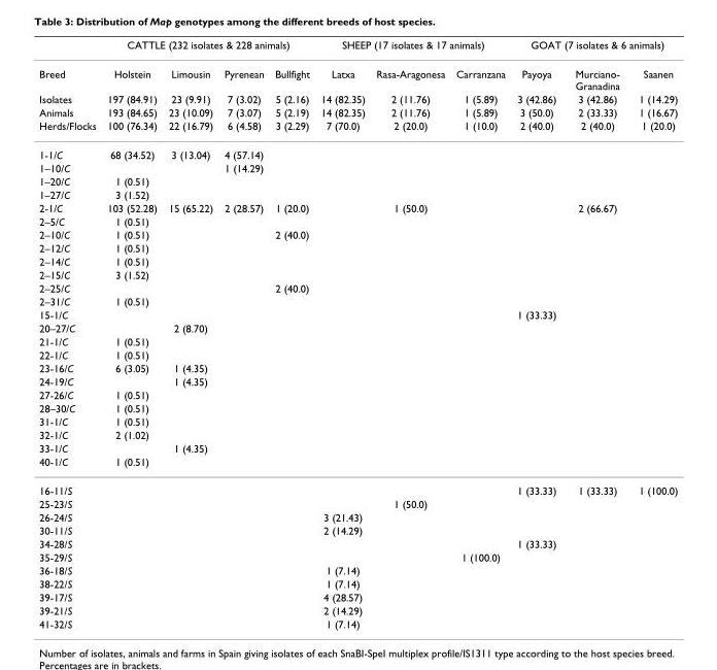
<table><thead><tr><td rowspan="2">Breed</td><td colspan="4">CATTLE (232 isolates &amp; 228 animals)</td><td colspan="3">SHEEP (17 isolates &amp; 17 animals)</td><td colspan="3">GOAT (7 isolates &amp; 6 animals)</td></tr><tr><td>Holstein</td><td>Limousin</td><td>Pyrenean</td><td>Bullfight</td><td>Latxa</td><td>Rasa-Aragonesa</td><td>Carranzana</td><td>Payoya</td><td>Murciano- Granadina</td><td>Saanen</td></tr></thead><tbody><tr><td>Isolates</td><td>197 (84.91)</td><td>23 (9.91)</td><td>7 (3.02)</td><td>5 (2.16)</td><td>14 (82.35)</td><td>2 (11.76)</td><td>1 (5.89)</td><td>3 (42.86)</td><td>3 (42.86)</td><td>1 (14.29)</td></tr><tr><td>Animals</td><td>193 (84.65)</td><td>23 (10.09)</td><td>7 (3.07)</td><td>5 (2.19)</td><td>14 (82.35)</td><td>2 (11.76)</td><td>1 (5.89)</td><td>3 (50.0)</td><td>2 (33.33)</td><td>1 (16.67)</td></tr><tr><td>Herds/Flocks</td><td>100 (76.34)</td><td>22 (16.79)</td><td>6 (4.58)</td><td>3 (2.29)</td><td>7 (70.0)</td><td>2 (20.0)</td><td>1 (10.0)</td><td>2 (40.0)</td><td>2 (40.0)</td><td>1 (20.0)</td></tr><tr><td>1-1/C</td><td>68 (34.52)</td><td>3 (13.04)</td><td>4 (57.14)</td><td></td><td></td><td></td><td></td><td></td><td></td><td></td></tr><tr><td>1–10/C</td><td></td><td></td><td>1 (14.29)</td><td></td><td></td><td></td><td></td><td></td><td></td><td></td></tr><tr><td>1–20/C</td><td>1 (0.51)</td><td></td><td></td><td></td><td></td><td></td><td></td><td></td><td></td><td></td></tr><tr><td>1–27/C</td><td>3 (1.52)</td><td></td><td></td><td></td><td></td><td></td><td></td><td></td><td></td><td></td></tr><tr><td>2-1/C</td><td>103 (52.28)</td><td>15 (65.22)</td><td>2 (28.57)</td><td>1 (20.0)</td><td></td><td>1 (50.0)</td><td></td><td></td><td>2 (66.67)</td><td></td></tr><tr><td>2–5/C</td><td>1 (0.51)</td><td></td><td></td><td></td><td></td><td></td><td></td><td></td><td></td><td></td></tr><tr><td>2–10/C</td><td>1 (0.51)</td><td></td><td></td><td>2 (40.0)</td><td></td><td></td><td></td><td></td><td></td><td></td></tr><tr><td>2–12/C</td><td>1 (0.51)</td><td></td><td></td><td></td><td></td><td></td><td></td><td></td><td></td><td></td></tr><tr><td>2–14/C</td><td>1 (0.51)</td><td></td><td></td><td></td><td></td><td></td><td></td><td></td><td></td><td></td></tr><tr><td>2–15/C</td><td>3 (1.52)</td><td></td><td></td><td></td><td></td><td></td><td></td><td></td><td></td><td></td></tr><tr><td>2–25/C</td><td></td><td></td><td></td><td>2 (40.0)</td><td></td><td></td><td></td><td></td><td></td><td></td></tr><tr><td>2–31/C</td><td>1 (0.51)</td><td></td><td></td><td></td><td></td><td></td><td></td><td></td><td></td><td></td></tr><tr><td>15-1/C</td><td></td><td></td><td></td><td></td><td></td><td></td><td></td><td>1 (33.33)</td><td></td><td></td></tr><tr><td>20–27/C</td><td></td><td>2 (8.70)</td><td></td><td></td><td></td><td></td><td></td><td></td><td></td><td></td></tr><tr><td>21-1/C</td><td>1 (0.51)</td><td></td><td></td><td></td><td></td><td></td><td></td><td></td><td></td><td></td></tr><tr><td>22-1/C</td><td>1 (0.51)</td><td></td><td></td><td></td><td></td><td></td><td></td><td></td><td></td><td></td></tr><tr><td>23-16/C</td><td>6 (3.05)</td><td>1 (4.35)</td><td></td><td></td><td></td><td></td><td></td><td></td><td></td><td></td></tr><tr><td>24-19/C</td><td></td><td>1 (4.35)</td><td></td><td></td><td></td><td></td><td></td><td></td><td></td><td></td></tr><tr><td>27-26/C</td><td>1 (0.51)</td><td></td><td></td><td></td><td></td><td></td><td></td><td></td><td></td><td></td></tr><tr><td>28–30/C</td><td>1 (0.51)</td><td></td><td></td><td></td><td></td><td></td><td></td><td></td><td></td><td></td></tr><tr><td>31-1/C</td><td>1 (0.51)</td><td></td><td></td><td></td><td></td><td></td><td></td><td></td><td></td><td></td></tr><tr><td>32-1/C</td><td>2 (1.02)</td><td></td><td></td><td></td><td></td><td></td><td></td><td></td><td></td><td></td></tr><tr><td>33-1/C</td><td></td><td>1 (4.35)</td><td></td><td></td><td></td><td></td><td></td><td></td><td></td><td></td></tr><tr><td>40-1/C</td><td>1 (0.51)</td><td></td><td></td><td></td><td></td><td></td><td></td><td></td><td></td><td></td></tr><tr><td>16-11/S</td><td></td><td></td><td></td><td></td><td></td><td></td><td></td><td>1 (33.33)</td><td>1 (33.33)</td><td>1 (100.0)</td></tr><tr><td>25-23/S</td><td></td><td></td><td></td><td></td><td></td><td>1 (50.0)</td><td></td><td></td><td></td><td></td></tr><tr><td>26-24/S</td><td></td><td></td><td></td><td></td><td>3 (21.43)</td><td></td><td></td><td></td><td></td><td></td></tr><tr><td>30-11/S</td><td></td><td></td><td></td><td></td><td>2 (14.29)</td><td></td><td></td><td></td><td></td><td></td></tr><tr><td>34-28/S</td><td></td><td></td><td></td><td></td><td></td><td></td><td></td><td>1 (33.33)</td><td></td><td></td></tr><tr><td>35-29/S</td><td></td><td></td><td></td><td></td><td></td><td></td><td>1 (100.0)</td><td></td><td></td><td></td></tr><tr><td>36-18/S</td><td></td><td></td><td></td><td></td><td>1 (7.14)</td><td></td><td></td><td></td><td></td><td></td></tr><tr><td>38-22/S</td><td></td><td></td><td></td><td></td><td>1 (7.14)</td><td></td><td></td><td></td><td></td><td></td></tr><tr><td>39-17/S</td><td></td><td></td><td></td><td></td><td>4 (28.57)</td><td></td><td></td><td></td><td></td><td></td></tr><tr><td>39-21/S</td><td></td><td></td><td></td><td></td><td>2 (14.29)</td><td></td><td></td><td></td><td></td><td></td></tr><tr><td>41-32/S</td><td></td><td></td><td></td><td></td><td>1 (7.14)</td><td></td><td></td><td></td><td></td><td></td></tr></tbody></table>